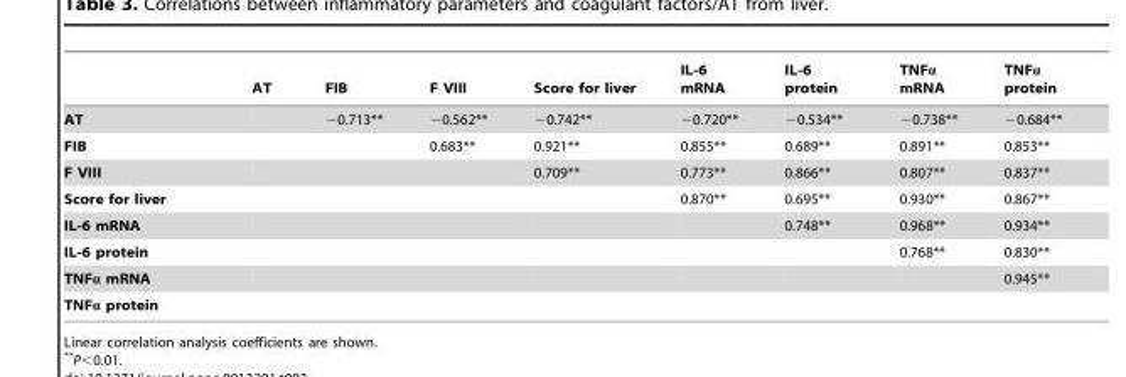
<table><thead><tr><td></td><td>AT</td><td>FIB</td><td>F VIII</td><td>Score for liver</td><td>IL-6 mRNA</td><td>IL-6 protein</td><td>TNFα mRNA</td><td>TNFα protein</td></tr></thead><tbody><tr><td>AT</td><td></td><td>−0.713**</td><td>−0.562**</td><td>−0.742**</td><td>−0.720**</td><td>−0.534**</td><td>−0.738**</td><td>−0.684**</td></tr><tr><td>FIB</td><td></td><td></td><td>0.683**</td><td>0.921**</td><td>0.855**</td><td>0.689**</td><td>0.891**</td><td>0.853**</td></tr><tr><td>F VIII</td><td></td><td></td><td></td><td>0.709**</td><td>0.773**</td><td>0.866**</td><td>0.807**</td><td>0.837**</td></tr><tr><td>Score for liver</td><td></td><td></td><td></td><td></td><td>0.870**</td><td>0.695**</td><td>0.930**</td><td>0.867**</td></tr><tr><td>IL-6 mRNA</td><td></td><td></td><td></td><td></td><td></td><td>0.748**</td><td>0.968**</td><td>0.934**</td></tr><tr><td>IL-6 protein</td><td></td><td></td><td></td><td></td><td></td><td></td><td>0.768**</td><td>0.830**</td></tr><tr><td>TNFα mRNA</td><td></td><td></td><td></td><td></td><td></td><td></td><td></td><td>0.945**</td></tr><tr><td>TNFα protein</td><td></td><td></td><td></td><td></td><td></td><td></td><td></td><td></td></tr></tbody></table>